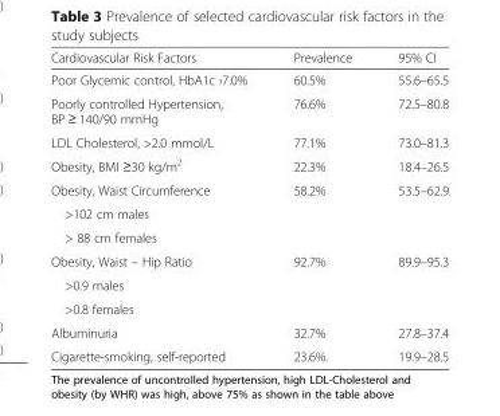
<table><thead><tr><td>Cardiovascular Risk Factors</td><td>Prevalence</td><td>95% CI</td></tr></thead><tbody><tr><td>Poor Glycemic control, HbA1c ›7.0%</td><td>60.5%</td><td>55.6–65.5</td></tr><tr><td>Poorly controlled Hypertension, BP ≥ 140/90 mmHg</td><td>76.6%</td><td>72.5–80.8</td></tr><tr><td>LDL Cholesterol, &gt;2.0 mmol/L</td><td>77.1%</td><td>73.0–81.3</td></tr><tr><td>Obesity, BMI ≥30 kg/m<sup>2</sup></td><td>22.3%</td><td>18.4–26.5</td></tr><tr><td>Obesity, Waist Circumference</td><td>58.2%</td><td>53.5–62.9</td></tr><tr><td colspan="3">&gt;102 cm males</td></tr><tr><td colspan="3">&gt; 88 cm females</td></tr><tr><td>Obesity, Waist – Hip Ratio</td><td>92.7%</td><td>89.9–95.3</td></tr><tr><td colspan="3">&gt;0.9 males</td></tr><tr><td colspan="3">&gt;0.8 females</td></tr><tr><td>Albuminuria</td><td>32.7%</td><td>27.8–37.4</td></tr><tr><td>Cigarette-smoking, self-reported</td><td>23.6%.</td><td>19.9–28.5</td></tr></tbody></table>